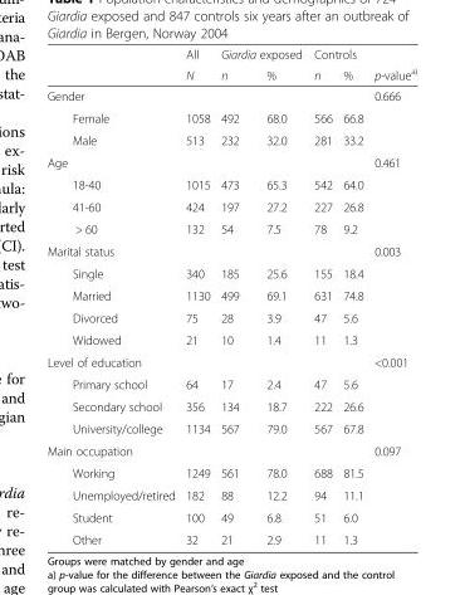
<table><thead><tr><td rowspan="2"></td><td rowspan="2">All N</td><td colspan="2">Giardia exposed</td><td colspan="2">Controls</td><td rowspan="2">p-value<sup>a)</sup></td></tr><tr><td>n</td><td>%</td><td>n</td><td>%</td></tr></thead><tbody><tr><td>Gender</td><td></td><td></td><td></td><td></td><td></td><td>0.666</td></tr><tr><td>Female</td><td>1058</td><td>492</td><td>68.0</td><td>566</td><td>66.8</td><td rowspan="2"></td></tr><tr><td>Male</td><td>513</td><td>232</td><td>32.0</td><td>281</td><td>33.2</td></tr><tr><td>Age</td><td></td><td></td><td></td><td></td><td></td><td>0.461</td></tr><tr><td>18-40</td><td>1015</td><td>473</td><td>65.3</td><td>542</td><td>64.0</td><td rowspan="3"></td></tr><tr><td>41-60</td><td>424</td><td>197</td><td>27.2</td><td>227</td><td>26.8</td></tr><tr><td>&gt; 60</td><td>132</td><td>54</td><td>7.5</td><td>78</td><td>9.2</td></tr><tr><td>Marital status</td><td></td><td></td><td></td><td></td><td></td><td>0.003</td></tr><tr><td>Single</td><td>340</td><td>185</td><td>25.6</td><td>155</td><td>18.4</td><td rowspan="4"></td></tr><tr><td>Married</td><td>1130</td><td>499</td><td>69.1</td><td>631</td><td>74.8</td></tr><tr><td>Divorced</td><td>75</td><td>28</td><td>3.9</td><td>47</td><td>5.6</td></tr><tr><td>Widowed</td><td>21</td><td>10</td><td>1.4</td><td>11</td><td>1.3</td></tr><tr><td>Level of education</td><td></td><td></td><td></td><td></td><td></td><td>&lt;0.001</td></tr><tr><td>Primary school</td><td>64</td><td>17</td><td>2.4</td><td>47</td><td>5.6</td><td rowspan="3"></td></tr><tr><td>Secondary school</td><td>356</td><td>134</td><td>18.7</td><td>222</td><td>26.6</td></tr><tr><td>University/college</td><td>1134</td><td>567</td><td>79.0</td><td>567</td><td>67.8</td></tr><tr><td>Main occupation</td><td></td><td></td><td></td><td></td><td></td><td>0.097</td></tr><tr><td>Working</td><td>1249</td><td>561</td><td>78.0</td><td>688</td><td>81.5</td><td rowspan="4"></td></tr><tr><td>Unemployed/retired</td><td>182</td><td>88</td><td>12.2</td><td>94</td><td>11.1</td></tr><tr><td>Student</td><td>100</td><td>49</td><td>6.8</td><td>51</td><td>6.0</td></tr><tr><td>Other</td><td>32</td><td>21</td><td>2.9</td><td>11</td><td>1.3</td></tr></tbody></table>